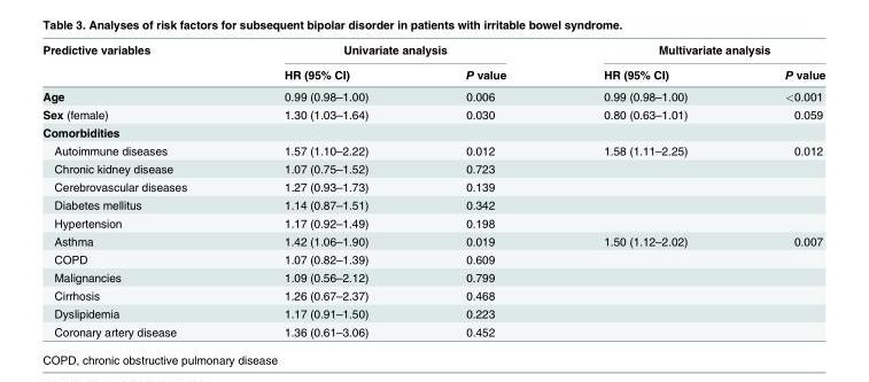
<table><thead><tr><td rowspan="2">Predictive variables</td><td colspan="2">Univariate analysis</td><td colspan="2">Multivariate analysis</td></tr><tr><td>HR (95% CI)</td><td>P value</td><td>HR (95% CI)</td><td>P value</td></tr></thead><tbody><tr><td>Age</td><td>0.99 (0.98–1.00)</td><td>0.006</td><td>0.99 (0.98–1.00)</td><td>&lt;0.001</td></tr><tr><td>Sex (female)</td><td>1.30 (1.03–1.64)</td><td>0.030</td><td>0.80 (0.63–1.01)</td><td>0.059</td></tr><tr><td colspan="5">Comorbidities</td></tr><tr><td>Autoimmune diseases</td><td>1.57 (1.10–2.22)</td><td>0.012</td><td>1.58 (1.11–2.25)</td><td>0.012</td></tr><tr><td>Chronic kidney disease</td><td>1.07 (0.75–1.52)</td><td>0.723</td><td></td><td></td></tr><tr><td>Cerebrovascular diseases</td><td>1.27 (0.93–1.73)</td><td>0.139</td><td></td><td></td></tr><tr><td>Diabetes mellitus</td><td>1.14 (0.87–1.51)</td><td>0.342</td><td></td><td></td></tr><tr><td>Hypertension</td><td>1.17 (0.92–1.49)</td><td>0.198</td><td></td><td></td></tr><tr><td>Asthma</td><td>1.42 (1.06–1.90)</td><td>0.019</td><td>1.50 (1.12–2.02)</td><td>0.007</td></tr><tr><td>COPD</td><td>1.07 (0.82–1.39)</td><td>0.609</td><td></td><td></td></tr><tr><td>Malignancies</td><td>1.09 (0.56–2.12)</td><td>0.799</td><td></td><td></td></tr><tr><td>Cirrhosis</td><td>1.26 (0.67–2.37)</td><td>0.468</td><td></td><td></td></tr><tr><td>Dyslipidemia</td><td>1.17 (0.91–1.50)</td><td>0.223</td><td></td><td></td></tr><tr><td>Coronary artery disease</td><td>1.36 (0.61–3.06)</td><td>0.452</td><td></td><td></td></tr></tbody></table>